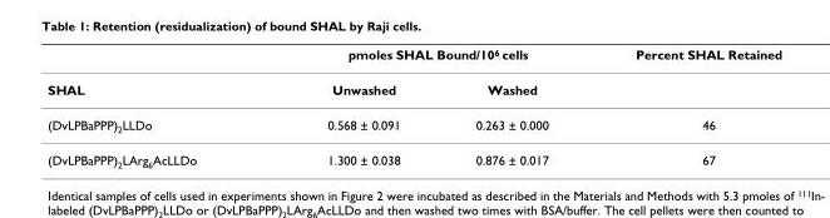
<table><thead><tr><td rowspan="2">SHAL</td><td colspan="2">pmoles SHAL Bound/10<sup>6</sup> cells</td><td rowspan="2">Percent SHAL Retained</td></tr><tr><td>Unwashed</td><td>Washed</td></tr></thead><tbody><tr><td>(DvLPBaPPP)<sub>2</sub>LLDo</td><td>0.568 ± 0.091</td><td>0.263 ± 0.000</td><td>46</td></tr><tr><td>(DvLPBaPPP)<sub>2</sub>LArg<sub>6</sub>AcLLDo</td><td>1.300 ± 0.038</td><td>0.876 ± 0.017</td><td>67</td></tr></tbody></table>